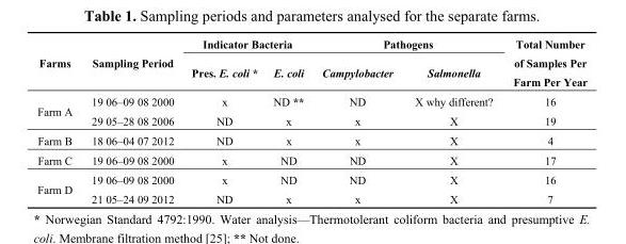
<table><thead><tr><td rowspan="2">Farms</td><td rowspan="2">Sampling Period</td><td colspan="2">Indicator Bacteria</td><td colspan="2">Pathogens</td><td rowspan="2">Total Number of Samples Per Farm Per Year</td></tr><tr><td>Pres. E. coli *</td><td>E. coli</td><td>Campylobacter</td><td>Salmonella</td></tr></thead><tbody><tr><td rowspan="2">Farm A</td><td>19 06–09 08 2000</td><td>x</td><td>ND **</td><td>ND</td><td>X why different?</td><td>16</td></tr><tr><td>29 05–28 08 2006</td><td>ND</td><td>x</td><td>x</td><td>X</td><td>19</td></tr><tr><td>Farm B</td><td>18 06–04 07 2012</td><td>ND</td><td>x</td><td>x</td><td>X</td><td>4</td></tr><tr><td>Farm C</td><td>19 06–09 08 2000</td><td>x</td><td>ND</td><td>ND</td><td>X</td><td>17</td></tr><tr><td rowspan="2">Farm D</td><td>19 06–09 08 2000</td><td>x</td><td>ND</td><td>ND</td><td>X</td><td>16</td></tr><tr><td>21 05–24 09 2012</td><td>ND</td><td>x</td><td>x</td><td>X</td><td>7</td></tr></tbody></table>